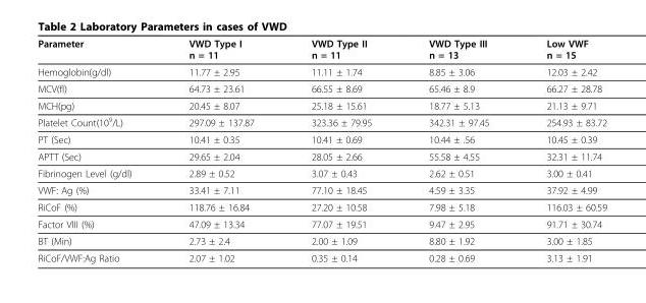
<table><thead><tr><td>Parameter</td><td>VWD Type I n = 11</td><td>VWD Type II n = 11</td><td>VWD Type III n = 13</td><td>Low VWF n = 15</td></tr></thead><tbody><tr><td>Hemoglobin(g/dl)</td><td>11.77 ± 2.95</td><td>11.11 ± 1.74</td><td>8.85 ± 3.06</td><td>12.03 ± 2.42</td></tr><tr><td>MCV(fl)</td><td>64.73 ± 23.61</td><td>66.55 ± 8.69</td><td>65.46 ± 8.9</td><td>66.27 ± 28.78</td></tr><tr><td>MCH(pg)</td><td>20.45 ± 8.07</td><td>25.18 ± 15.61</td><td>18.77 ± 5.13</td><td>21.13 ± 9.71</td></tr><tr><td>Platelet Count(10<sup>9</sup>/L)</td><td>297.09 ± 137.87</td><td>323.36 ± 79.95</td><td>342.31 ± 97.45</td><td>254.93 ± 83.72</td></tr><tr><td>PT (Sec)</td><td>10.41 ± 0.35</td><td>10.41 ± 0.69</td><td>10.44 ± .56</td><td>10.45 ± 0.39</td></tr><tr><td>APTT (Sec)</td><td>29.65 ± 2.04</td><td>28.05 ± 2.66</td><td>55.58 ± 4.55</td><td>32.31 ± 11.74</td></tr><tr><td>Fibrinogen Level (g/dl)</td><td>2.89 ± 0.52</td><td>3.07 ± 0.43</td><td>2.62 ± 0.51</td><td>3.00 ± 0.41</td></tr><tr><td>VWF: Ag (%)</td><td>33.41 ± 7.11</td><td>77.10 ± 18.45</td><td>4.59 ± 3.35</td><td>37.92 ± 4.99</td></tr><tr><td>RiCoF (%)</td><td>118.76 ± 16.84</td><td>27.20 ± 10.58</td><td>7.98 ± 5.18</td><td>116.03 ± 60.59</td></tr><tr><td>Factor VIII (%)</td><td>47.09 ± 13.34</td><td>77.07 ± 19.51</td><td>9.47 ± 2.95</td><td>91.71 ± 30.74</td></tr><tr><td>BT (Min)</td><td>2.73 ± 2.4</td><td>2.00 ± 1.09</td><td>8.80 ± 1.92</td><td>3.00 ± 1.85</td></tr><tr><td>RiCoF/VWF:Ag Ratio</td><td>2.07 ± 1.02</td><td>0.35 ± 0.14</td><td>0.28 ± 0.69</td><td>3.13 ± 1.91</td></tr></tbody></table>